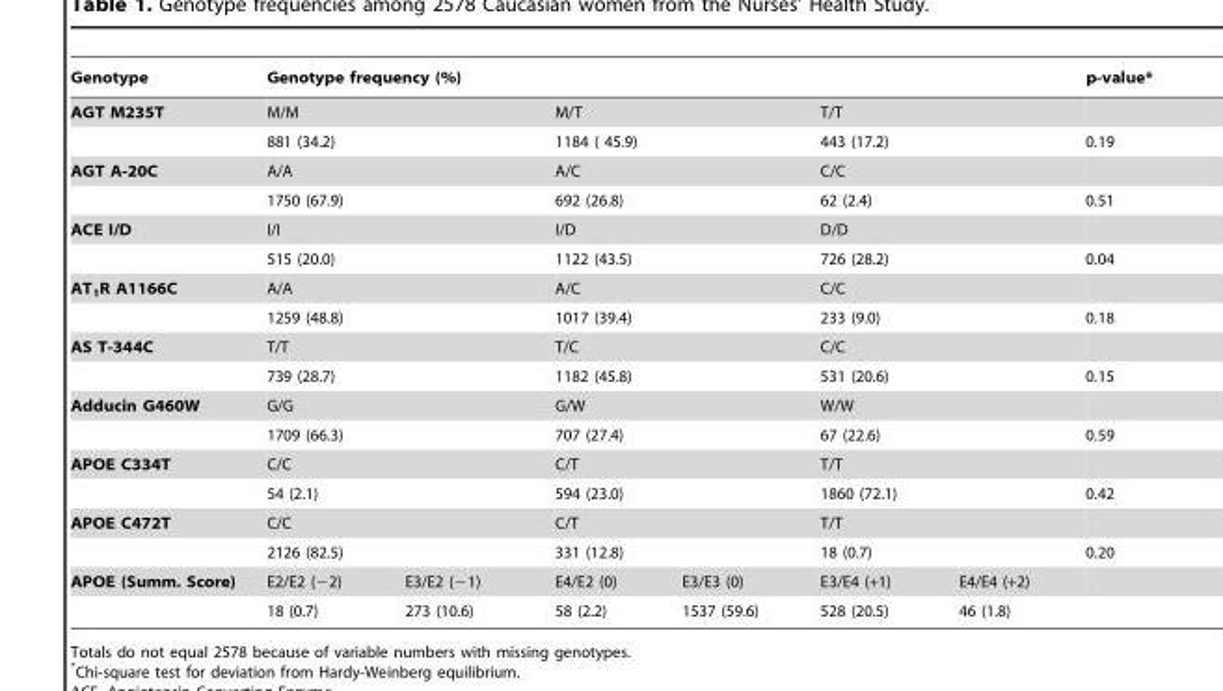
<table><thead><tr><td>Genotype</td><td colspan="6">Genotype frequency (%)</td><td>p-value*</td></tr></thead><tbody><tr><td rowspan="2">AGT M235T</td><td colspan="2">M/M</td><td colspan="2">M/T</td><td colspan="2">T/T</td><td></td></tr><tr><td colspan="2">881 (34.2)</td><td colspan="2">1184 ( 45.9)</td><td colspan="2">443 (17.2)</td><td>0.19</td></tr><tr><td rowspan="2">AGT A-20C</td><td colspan="2">A/A</td><td colspan="2">A/C</td><td colspan="2">C/C</td><td></td></tr><tr><td colspan="2">1750 (67.9)</td><td colspan="2">692 (26.8)</td><td colspan="2">62 (2.4)</td><td>0.51</td></tr><tr><td rowspan="2">ACE I/D</td><td colspan="2">I/I</td><td colspan="2">I/D</td><td colspan="2">D/D</td><td></td></tr><tr><td colspan="2">515 (20.0)</td><td colspan="2">1122 (43.5)</td><td colspan="2">726 (28.2)</td><td>0.04</td></tr><tr><td rowspan="2">AT<sub>1</sub>R A1166C</td><td colspan="2">A/A</td><td colspan="2">A/C</td><td colspan="2">C/C</td><td></td></tr><tr><td colspan="2">1259 (48.8)</td><td colspan="2">1017 (39.4)</td><td colspan="2">233 (9.0)</td><td>0.18</td></tr><tr><td rowspan="2">AS T-344C</td><td colspan="2">T/T</td><td colspan="2">T/C</td><td colspan="2">C/C</td><td></td></tr><tr><td colspan="2">739 (28.7)</td><td colspan="2">1182 (45.8)</td><td colspan="2">531 (20.6)</td><td>0.15</td></tr><tr><td rowspan="2">Adducin G460W</td><td colspan="2">G/G</td><td colspan="2">G/W</td><td colspan="2">W/W</td><td></td></tr><tr><td colspan="2">1709 (66.3)</td><td colspan="2">707 (27.4)</td><td colspan="2">67 (22.6)</td><td>0.59</td></tr><tr><td rowspan="2">APOE C334T</td><td colspan="2">C/C</td><td colspan="2">C/T</td><td colspan="2">T/T</td><td></td></tr><tr><td colspan="2">54 (2.1)</td><td colspan="2">594 (23.0)</td><td colspan="2">1860 (72.1)</td><td>0.42</td></tr><tr><td rowspan="2">APOE C472T</td><td colspan="2">C/C</td><td colspan="2">C/T</td><td colspan="2">T/T</td><td></td></tr><tr><td colspan="2">2126 (82.5)</td><td colspan="2">331 (12.8)</td><td colspan="2">18 (0.7)</td><td>0.20</td></tr><tr><td rowspan="2">APOE (Summ. Score)</td><td>E2/E2 (−2)</td><td>E3/E2 (−1)</td><td>E4/E2 (0)</td><td>E3/E3 (0)</td><td>E3/E4 (+1)</td><td>E4/E4 (+2)</td><td></td></tr><tr><td>18 (0.7)</td><td>273 (10.6)</td><td>58 (2.2)</td><td>1537 (59.6)</td><td>528 (20.5)</td><td>46 (1.8)</td><td></td></tr></tbody></table>